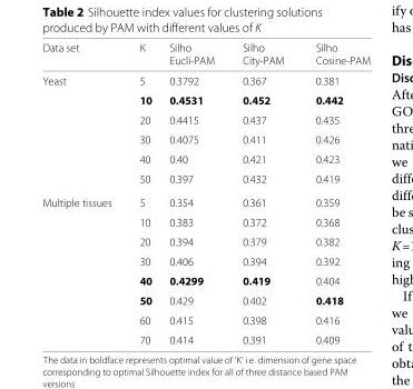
<table><thead><tr><td>Data set</td><td>K</td><td>Silho Eucli-PAM</td><td>Silho City-PAM</td><td>Silho Cosine-PAM</td></tr></thead><tbody><tr><td rowspan="6">Yeast</td><td>5</td><td>0.3792</td><td>0.367</td><td>0.381</td></tr><tr><td>10</td><td>0.4531</td><td>0.452</td><td>0.442</td></tr><tr><td>20</td><td>0.4415</td><td>0.437</td><td>0.435</td></tr><tr><td>30</td><td>0.4075</td><td>0.411</td><td>0.426</td></tr><tr><td>40</td><td>0.40</td><td>0.421</td><td>0.423</td></tr><tr><td>50</td><td>0.397</td><td>0.432</td><td>0.419</td></tr><tr><td rowspan="8">Multiple tissues</td><td>5</td><td>0.354</td><td>0.361</td><td>0.359</td></tr><tr><td>10</td><td>0.383</td><td>0.372</td><td>0.368</td></tr><tr><td>20</td><td>0.394</td><td>0.379</td><td>0.382</td></tr><tr><td>30</td><td>0.406</td><td>0.394</td><td>0.392</td></tr><tr><td>40</td><td>0.4299</td><td>0.419</td><td>0.404</td></tr><tr><td>50</td><td>0.429</td><td>0.402</td><td>0.418</td></tr><tr><td>60</td><td>0.415</td><td>0.398</td><td>0.416</td></tr><tr><td>70</td><td>0.414</td><td>0.391</td><td>0.409</td></tr></tbody></table>